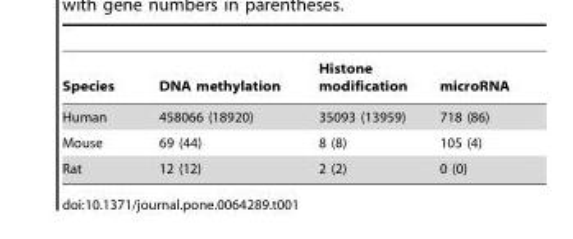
<table><thead><tr><td>Species</td><td>DNA methylation</td><td>Histone modification</td><td>microRNA</td></tr></thead><tbody><tr><td>Human</td><td>458066 (18920)</td><td>35093 (13959)</td><td>718 (86)</td></tr><tr><td>Mouse</td><td>69 (44)</td><td>8 (8)</td><td>105 (4)</td></tr><tr><td>Rat</td><td>12 (12)</td><td>2 (2)</td><td>0 (0)</td></tr></tbody></table>